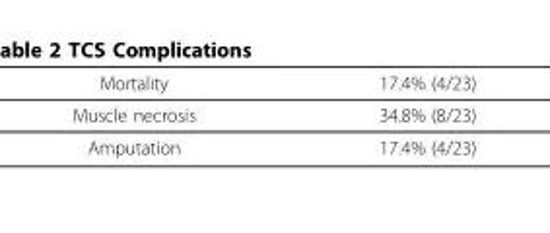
<table><thead><tr><td>Mortality</td><td>17.4% (4/23)</td></tr></thead><tbody><tr><td>Muscle necrosis</td><td>34.8% (8/23)</td></tr><tr><td>Amputation</td><td>17.4% (4/23)</td></tr></tbody></table>